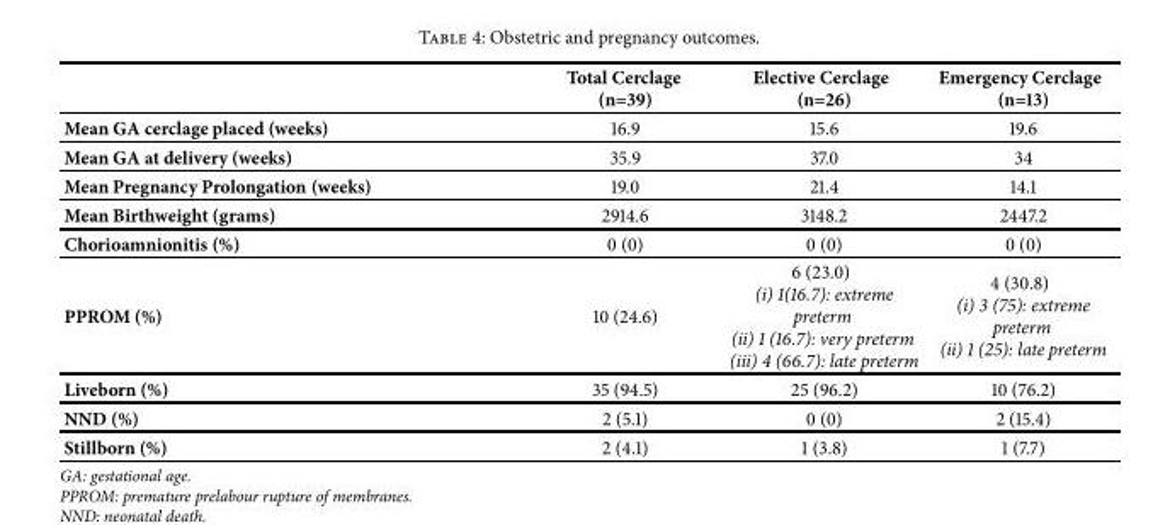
<table><thead><tr><td></td><td>Total Cerclage (n=39)</td><td>Elective Cerclage (n=26)</td><td>Emergency Cerclage (n=13)</td></tr></thead><tbody><tr><td>Mean GA cerclage placed (weeks)</td><td>16.9</td><td>15.6</td><td>19.6</td></tr><tr><td>Mean GA at delivery (weeks)</td><td>35.9</td><td>37.0</td><td>34</td></tr><tr><td>Mean Pregnancy Prolongation (weeks)</td><td>19.0</td><td>21.4</td><td>14.1</td></tr><tr><td>Mean Birthweight (grams)</td><td>2914.6</td><td>3148.2</td><td>2447.2</td></tr><tr><td>Chorioamnionitis (%)</td><td>0 (0)</td><td>0 (0)</td><td>0 (0)</td></tr><tr><td>PPROM (%)</td><td>10 (24.6)</td><td>6 (23.0) (i) 1(16.7): extreme preterm (ii) 1 (16.7): very preterm (iii) 4 (66.7): late preterm</td><td>4 (30.8) (i) 3 (75): extreme preterm (ii) 1 (25): late preterm</td></tr><tr><td>Liveborn (%)</td><td>35 (94.5)</td><td>25 (96.2)</td><td>10 (76.2)</td></tr><tr><td>NND (%)</td><td>2 (5.1)</td><td>0 (0)</td><td>2 (15.4)</td></tr><tr><td>Stillborn (%)</td><td>2 (4.1)</td><td>1 (3.8)</td><td>1 (7.7)</td></tr></tbody></table>